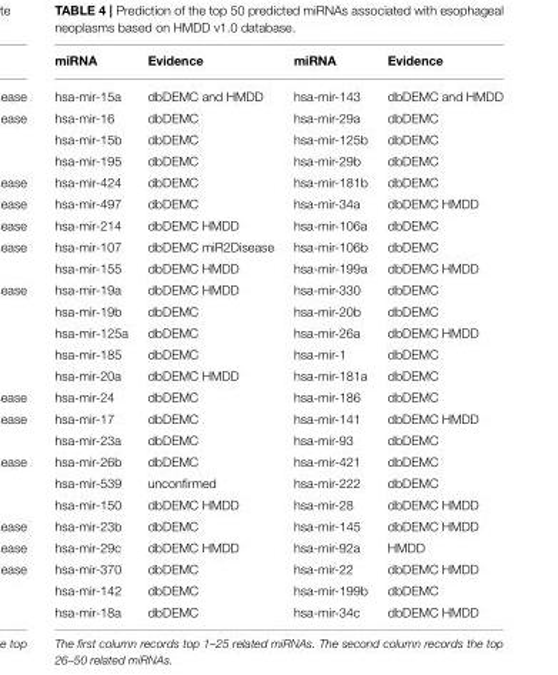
<table><thead><tr><td>miRNA</td><td>Evidence</td><td>miRNA</td><td>Evidence</td></tr></thead><tbody><tr><td>hsa-mir-15a</td><td>dbDEMC and HMDD</td><td>hsa-mir-143</td><td>dbDEMC and HMDD</td></tr><tr><td>hsa-mir-16</td><td>dbDEMC</td><td>hsa-mir-29a</td><td>dbDEMC</td></tr><tr><td>hsa-mir-15b</td><td>dbDEMC</td><td>hsa-mir-125b</td><td>dbDEMC</td></tr><tr><td>hsa-mir-195</td><td>dbDEMC</td><td>hsa-mir-29b</td><td>dbDEMC</td></tr><tr><td>hsa-mir-424</td><td>dbDEMC</td><td>hsa-mir-181b</td><td>dbDEMC</td></tr><tr><td>hsa-mir-497</td><td>dbDEMC</td><td>hsa-mir-34a</td><td>dbDEMC HMDD</td></tr><tr><td>hsa-mir-214</td><td>dbDEMC HMDD</td><td>hsa-mir-106a</td><td>dbDEMC</td></tr><tr><td>hsa-mir-107</td><td>dbDEMC miR2Disease</td><td>hsa-mir-106b</td><td>dbDEMC</td></tr><tr><td>hsa-mir-155</td><td>dbDEMC HMDD</td><td>hsa-mir-199a</td><td>dbDEMC HMDD</td></tr><tr><td>hsa-mir-19a</td><td>dbDEMC HMDD</td><td>hsa-mir-330</td><td>dbDEMC</td></tr><tr><td>hsa-mir-19b</td><td>dbDEMC</td><td>hsa-mir-20b</td><td>dbDEMC</td></tr><tr><td>hsa-mir-125a</td><td>dbDEMC</td><td>hsa-mir-26a</td><td>dbDEMC HMDD</td></tr><tr><td>hsa-mir-185</td><td>dbDEMC</td><td>hsa-mir-1</td><td>dbDEMC</td></tr><tr><td>hsa-mir-20a</td><td>dbDEMC HMDD</td><td>hsa-mir-181a</td><td>dbDEMC</td></tr><tr><td>hsa-mir-24</td><td>dbDEMC</td><td>hsa-mir-186</td><td>dbDEMC</td></tr><tr><td>hsa-mir-17</td><td>dbDEMC</td><td>hsa-mir-141</td><td>dbDEMC HMDD</td></tr><tr><td>hsa-mir-23a</td><td>dbDEMC</td><td>hsa-mir-93</td><td>dbDEMC</td></tr><tr><td>hsa-mir-26b</td><td>dbDEMC</td><td>hsa-mir-421</td><td>dbDEMC</td></tr><tr><td>hsa-mir-539</td><td>unconfirmed</td><td>hsa-mir-222</td><td>dbDEMC</td></tr><tr><td>hsa-mir-150</td><td>dbDEMC HMDD</td><td>hsa-mir-28</td><td>dbDEMC HMDD</td></tr><tr><td>hsa-mir-23b</td><td>dbDEMC</td><td>hsa-mir-145</td><td>dbDEMC HMDD</td></tr><tr><td>hsa-mir-29c</td><td>dbDEMC HMDD</td><td>hsa-mir-92a</td><td>HMDD</td></tr><tr><td>hsa-mir-370</td><td>dbDEMC</td><td>hsa-mir-22</td><td>dbDEMC HMDD</td></tr><tr><td>hsa-mir-142</td><td>dbDEMC</td><td>hsa-mir-199b</td><td>dbDEMC</td></tr><tr><td>hsa-mir-18a</td><td>dbDEMC</td><td>hsa-mir-34c</td><td>dbDEMC HMDD</td></tr></tbody></table>